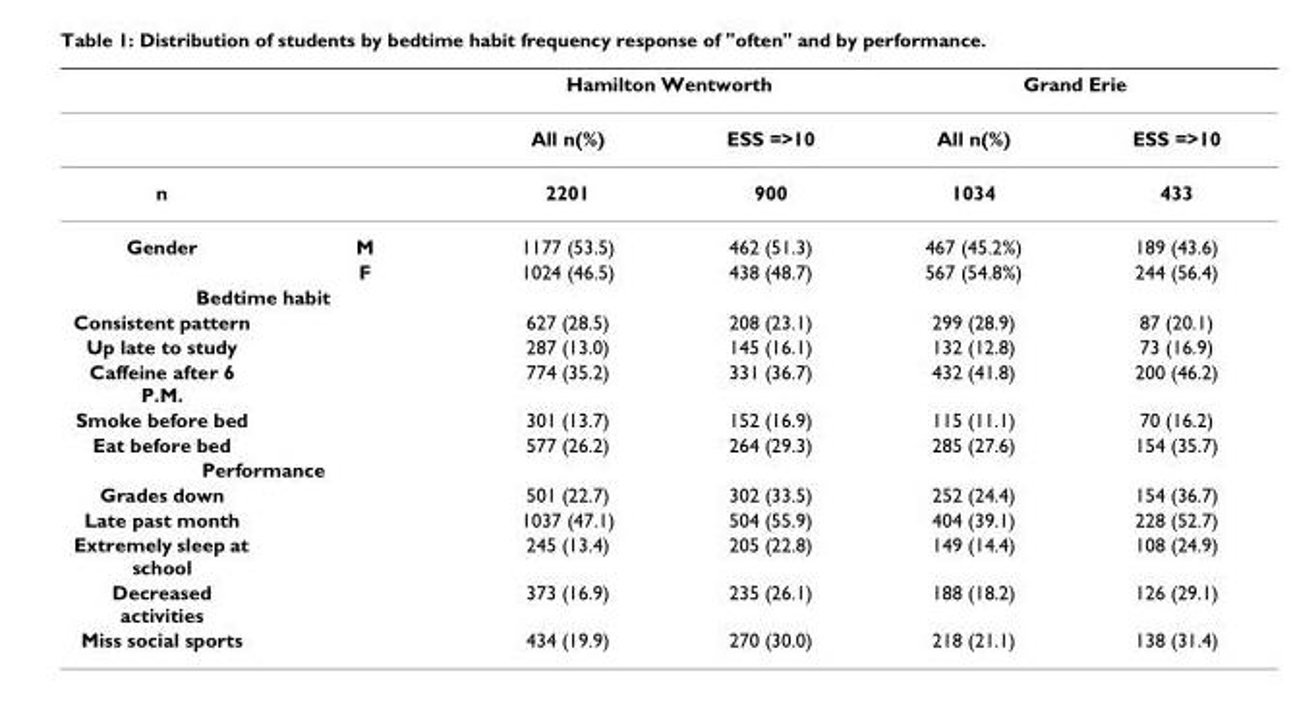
<table><thead><tr><td rowspan="2"></td><td rowspan="2"></td><td colspan="2">Hamilton Wentworth</td><td colspan="2">Grand Erie</td></tr><tr><td>All n(%)</td><td>ESS =&gt;10</td><td>All n(%)</td><td>ESS =&gt;10</td></tr></thead><tbody><tr><td>n</td><td></td><td>2201</td><td>900</td><td>1034</td><td>433</td></tr><tr><td rowspan="2">Gender</td><td>M</td><td>1177 (53.5)</td><td>462 (51.3)</td><td>467 (45.2%)</td><td>189 (43.6)</td></tr><tr><td>F</td><td>1024 (46.5)</td><td>438 (48.7)</td><td>567 (54.8%)</td><td>244 (56.4)</td></tr><tr><td colspan="6">Bedtime habit</td></tr><tr><td>Consistent pattern</td><td></td><td>627 (28.5)</td><td>208 (23.1)</td><td>299 (28.9)</td><td>87 (20.1)</td></tr><tr><td>Up late to study</td><td></td><td>287 (13.0)</td><td>145 (16.1)</td><td>132 (12.8)</td><td>73 (16.9)</td></tr><tr><td>Caffeine after 6 P.M.</td><td></td><td>774 (35.2)</td><td>331 (36.7)</td><td>432 (41.8)</td><td>200 (46.2)</td></tr><tr><td>Smoke before bed</td><td></td><td>301 (13.7)</td><td>152 (16.9)</td><td>115 (11.1)</td><td>70 (16.2)</td></tr><tr><td>Eat before bed</td><td></td><td>577 (26.2)</td><td>264 (29.3)</td><td>285 (27.6)</td><td>154 (35.7)</td></tr><tr><td colspan="6">Performance</td></tr><tr><td>Grades down</td><td></td><td>501 (22.7)</td><td>302 (33.5)</td><td>252 (24.4)</td><td>154 (36.7)</td></tr><tr><td>Late past month</td><td></td><td>1037 (47.1)</td><td>504 (55.9)</td><td>404 (39.1)</td><td>228 (52.7)</td></tr><tr><td>Extremely sleep at school</td><td></td><td>245 (13.4)</td><td>205 (22.8)</td><td>149 (14.4)</td><td>108 (24.9)</td></tr><tr><td>Decreased activities</td><td></td><td>373 (16.9)</td><td>235 (26.1)</td><td>188 (18.2)</td><td>126 (29.1)</td></tr><tr><td>Miss social sports</td><td></td><td>434 (19.9)</td><td>270 (30.0)</td><td>218 (21.1)</td><td>138 (31.4)</td></tr></tbody></table>